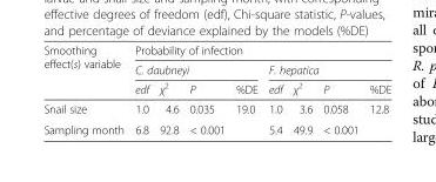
<table><thead><tr><td rowspan="3">Smoothing effect(s) variable</td><td colspan="8">Probability of infection</td></tr><tr><td colspan="4">C. daubneyi</td><td colspan="4">F. hepatica</td></tr><tr><td>edf</td><td>χ<sup>2</sup></td><td>P</td><td>%DE</td><td>edf</td><td>χ<sup>2</sup></td><td>P</td><td>%DE</td></tr></thead><tbody><tr><td>Snail size</td><td>1.0</td><td>4.6</td><td>0.035</td><td rowspan="2">19.0</td><td>1.0</td><td>3.6</td><td>0.058</td><td rowspan="2">12.8</td></tr><tr><td>Sampling month</td><td>6.8</td><td>92.8</td><td>&lt; 0.001</td><td>5.4</td><td>49.9</td><td>&lt; 0.001</td></tr></tbody></table>